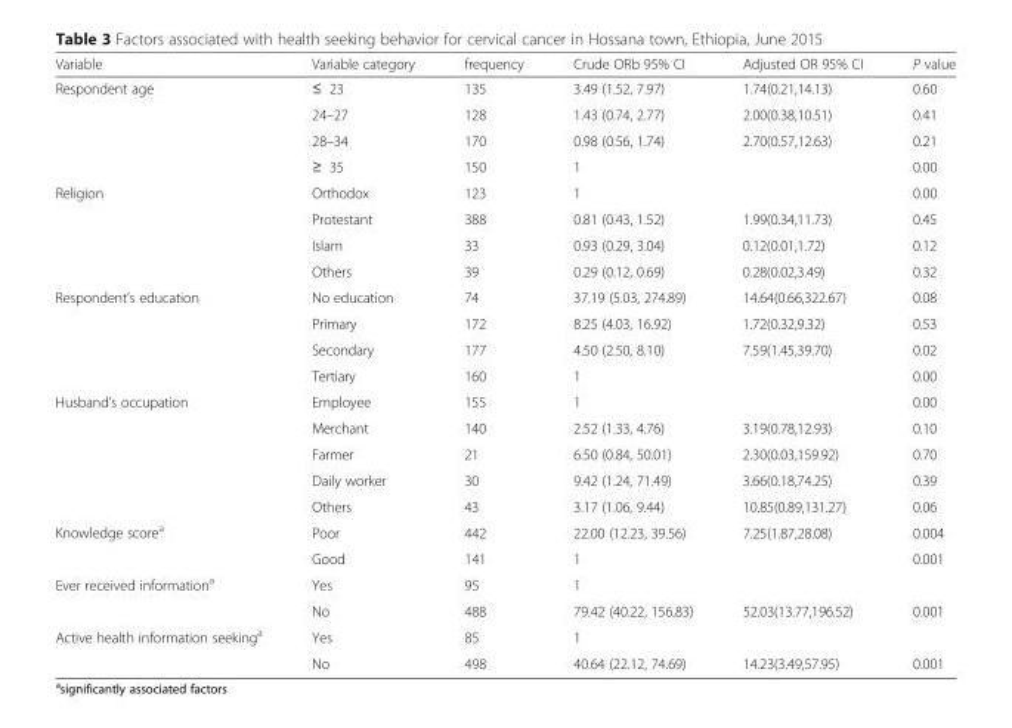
<table><thead><tr><td>Variable</td><td>Variable category</td><td>frequency</td><td>Crude ORb 95% CI</td><td>Adjusted OR 95% CI</td><td>P value</td></tr></thead><tbody><tr><td rowspan="4">Respondent age</td><td>≤ 23</td><td>135</td><td>3.49 (1.52, 7.97)</td><td>1.74(0.21,14.13)</td><td>0.60</td></tr><tr><td>24–27</td><td>128</td><td>1.43 (0.74, 2.77)</td><td>2.00(0.38,10.51)</td><td>0.41</td></tr><tr><td>28–34</td><td>170</td><td>0.98 (0.56, 1.74)</td><td>2.70(0.57,12.63)</td><td>0.21</td></tr><tr><td>≥ 35</td><td>150</td><td>1</td><td></td><td>0.00</td></tr><tr><td rowspan="4">Religion</td><td>Orthodox</td><td>123</td><td>1</td><td></td><td>0.00</td></tr><tr><td>Protestant</td><td>388</td><td>0.81 (0.43, 1.52)</td><td>1.99(0.34,11.73)</td><td>0.45</td></tr><tr><td>Islam</td><td>33</td><td>0.93 (0.29, 3.04)</td><td>0.12(0.01,1.72)</td><td>0.12</td></tr><tr><td>Others</td><td>39</td><td>0.29 (0.12, 0.69)</td><td>0.28(0.02,3.49)</td><td>0.32</td></tr><tr><td rowspan="4">Respondent’s education</td><td>No education</td><td>74</td><td>37.19 (5.03, 274.89)</td><td>14.64(0.66,322.67)</td><td>0.08</td></tr><tr><td>Primary</td><td>172</td><td>8.25 (4.03, 16.92)</td><td>1.72(0.32,9.32)</td><td>0.53</td></tr><tr><td>Secondary</td><td>177</td><td>4.50 (2.50, 8.10)</td><td>7.59(1.45,39.70)</td><td>0.02</td></tr><tr><td>Tertiary</td><td>160</td><td>1</td><td></td><td>0.00</td></tr><tr><td rowspan="5">Husband’s occupation</td><td>Employee</td><td>155</td><td>1</td><td></td><td>0.00</td></tr><tr><td>Merchant</td><td>140</td><td>2.52 (1.33, 4.76)</td><td>3.19(0.78,12.93)</td><td>0.10</td></tr><tr><td>Farmer</td><td>21</td><td>6.50 (0.84, 50.01)</td><td>2.30(0.03,159.92)</td><td>0.70</td></tr><tr><td>Daily worker</td><td>30</td><td>9.42 (1.24, 71.49)</td><td>3.66(0.18,74.25)</td><td>0.39</td></tr><tr><td>Others</td><td>43</td><td>3.17 (1.06, 9.44)</td><td>10.85(0.89,131.27)</td><td>0.06</td></tr><tr><td rowspan="2">Knowledge score<sup>a</sup></td><td>Poor</td><td>442</td><td>22.00 (12.23, 39.56)</td><td>7.25(1.87,28.08)</td><td>0.004</td></tr><tr><td>Good</td><td>141</td><td>1</td><td></td><td>0.001</td></tr><tr><td rowspan="2">Ever received information<sup>a</sup></td><td>Yes</td><td>95</td><td>1</td><td></td><td></td></tr><tr><td>No</td><td>488</td><td>79.42 (40.22, 156.83)</td><td>52.03(13.77,196.52)</td><td>0.001</td></tr><tr><td rowspan="2">Active health information seeking<sup>a</sup></td><td>Yes</td><td>85</td><td>1</td><td></td><td></td></tr><tr><td>No</td><td>498</td><td>40.64 (22.12, 74.69)</td><td>14.23(3.49,57.95)</td><td>0.001</td></tr></tbody></table>